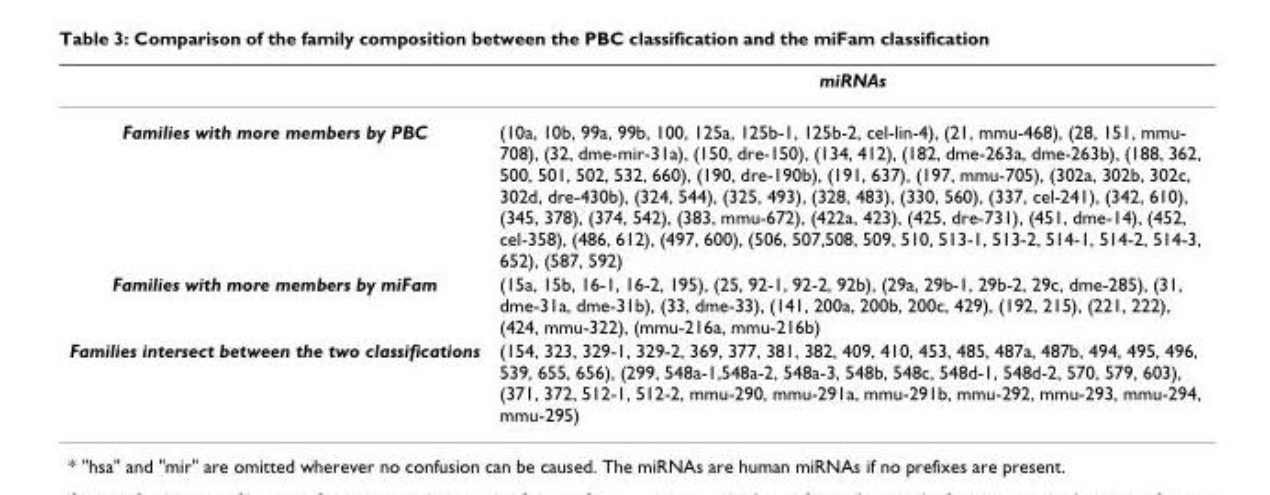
<table><thead><tr><td></td><td>miRNAs</td></tr></thead><tbody><tr><td>Families with more members by PBC</td><td>(10a, 10b, 99a, 99b, 100, 125a, 125b-1, 125b-2, cel-lin-4), (21, mmu-468), (28, 151, mmu- 708), (32, dme-mir-31a), (150, dre-150), (134, 412), (182, dme-263a, dme-263b), (188, 362, 500, 501, 502, 532, 660), (190, dre-190b), (191, 637), (197, mmu-705), (302a, 302b, 302c, 302d, dre-430b), (324, 544), (325, 493), (328, 483), (330, 560), (337, cel-241), (342, 610), (345, 378), (374, 542), (383, mmu-672), (422a, 423), (425, dre-731), (451, dme-14), (452, cel-358), (486, 612), (497, 600), (506, 507,508, 509, 510, 513-1, 513-2, 514-1, 514-2, 514-3, 652), (587, 592)</td></tr><tr><td>Families with more members by miFam</td><td>(15a, 15b, 16-1, 16-2, 195), (25, 92-1, 92-2, 92b), (29a, 29b-1, 29b-2, 29c, dme-285), (31, dme-31a, dme-31b), (33, dme-33), (141, 200a, 200b, 200c, 429), (192, 215), (221, 222), (424, mmu-322), (mmu-216a, mmu-216b)</td></tr><tr><td>Families intersect between the two classifications</td><td>(154, 323, 329-1, 329-2, 369, 377, 381, 382, 409, 410, 453, 485, 487a, 487b, 494, 495, 496, 539, 655, 656), (299, 548a-1,548a-2, 548a-3, 548b, 548c, 548d-1, 548d-2, 570, 579, 603), (371, 372, 512-1, 512-2, mmu-290, mmu-291a, mmu-291b, mmu-292, mmu-293, mmu-294, mmu-295)</td></tr></tbody></table>